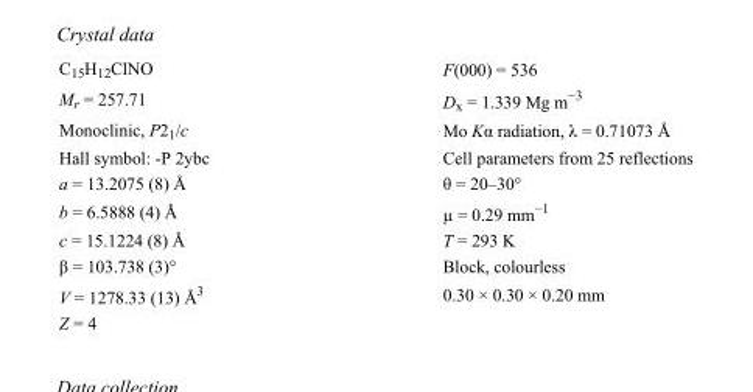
<table><tbody><tr><td>C<sub>15</sub>H<sub>12</sub>ClNO</td><td>F(000) = 536</td></tr><tr><td>M<sub>r</sub> = 257.71</td><td>D<sub>x</sub> = 1.339 Mg m<sup>−3</sup></td></tr><tr><td>Monoclinic, P2<sub>1</sub>/c</td><td>Mo Kα radiation, λ = 0.71073 Å</td></tr><tr><td>Hall symbol: -P 2ybc</td><td>Cell parameters from 25 reflections</td></tr><tr><td>a = 13.2075 (8) Å</td><td>θ = 20–30°</td></tr><tr><td>b = 6.5888 (4) Å</td><td>µ = 0.29 mm<sup>−1</sup></td></tr><tr><td>c = 15.1224 (8) Å</td><td>T = 293 K</td></tr><tr><td>β = 103.738 (3)°</td><td>Block, colourless</td></tr><tr><td>V = 1278.33 (13) Å<sup>3</sup></td><td>0.30 × 0.30 × 0.20 mm</td></tr><tr><td>Z = 4</td><td></td></tr></tbody></table>